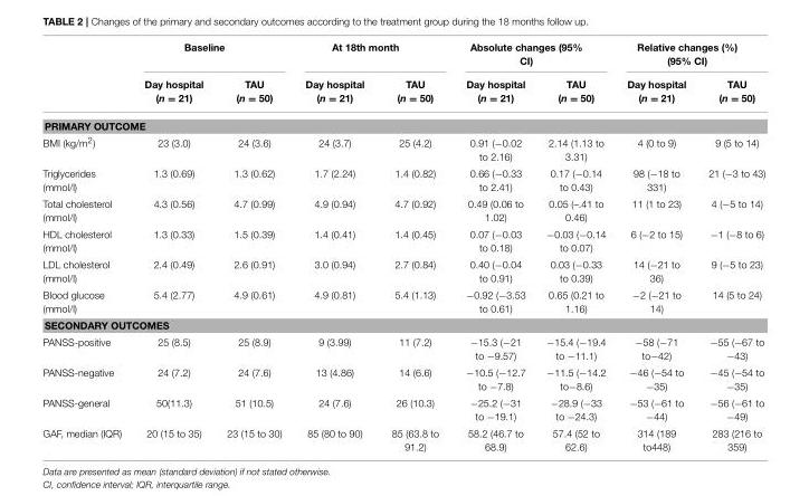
<table><thead><tr><td rowspan="2"></td><td colspan="2">Baseline</td><td colspan="2">At 18th month</td><td colspan="2">Absolute changes (95% CI)</td><td colspan="2">Relative changes (%) (95% CI)</td></tr><tr><td>Day hospital (n = 21)</td><td>TAU (n = 50)</td><td>Day hospital (n = 21)</td><td>TAU (n = 50)</td><td>Day hospital (n = 21)</td><td>TAU (n = 50)</td><td>Day hospital (n = 21)</td><td>TAU (n = 50)</td></tr></thead><tbody><tr><td colspan="9">PRIMARY OUTCOME</td></tr><tr><td>BMI (kg/m<sup>2</sup>)</td><td>23 (3.0)</td><td>24 (3.6)</td><td>24 (3.7)</td><td>25 (4.2)</td><td>0.91 (−0.02 to 2.16)</td><td>2.14 (1.13 to 3.31)</td><td>4 (0 to 9)</td><td>9 (5 to 14)</td></tr><tr><td>Triglycerides (mmol/l)</td><td>1.3 (0.69)</td><td>1.3 (0.62)</td><td>1.7 (2.24)</td><td>1.4 (0.82)</td><td>0.66 (−0.33 to 2.41)</td><td>0.17 (−0.14 to 0.43)</td><td>98 (−18 to 331)</td><td>21 (−3 to 43)</td></tr><tr><td>Total cholesterol (mmol/l)</td><td>4.3 (0.56)</td><td>4.7 (0.99)</td><td>4.9 (0.94)</td><td>4.7 (0.92)</td><td>0.49 (0.06 to 1.02)</td><td>0.05 (–.41 to 0.46)</td><td>11 (1 to 23)</td><td>4 (−5 to 14)</td></tr><tr><td>HDL cholesterol (mmol/l)</td><td>1.3 (0.33)</td><td>1.5 (0.39)</td><td>1.4 (0.41)</td><td>1.4 (0.45)</td><td>0.07 (−0.03 to 0.18)</td><td>−0.03 (−0.14 to 0.07)</td><td>6 (−2 to 15)</td><td>−1 (−8 to 6)</td></tr><tr><td>LDL cholesterol (mmol/l)</td><td>2.4 (0.49)</td><td>2.6 (0.91)</td><td>3.0 (0.94)</td><td>2.7 (0.84)</td><td>0.40 (−0.04 to 0.91)</td><td>0.03 (−0.33 to 0.39)</td><td>14 (−21 to 36)</td><td>9 (−5 to 23)</td></tr><tr><td>Blood glucose (mmol/l)</td><td>5.4 (2.77)</td><td>4.9 (0.61)</td><td>4.9 (0.81)</td><td>5.4 (1.13)</td><td>−0.92 (−3.53 to 0.61)</td><td>0.65 (0.21 to 1.16)</td><td>−2 (−21 to 14)</td><td>14 (5 to 24)</td></tr><tr><td colspan="9">SECONDARY OUTCOMES</td></tr><tr><td>PANSS-positive</td><td>25 (8.5)</td><td>25 (8.9)</td><td>9 (3.99)</td><td>11 (7.2)</td><td>−15.3 (−21 to −9.57)</td><td>−15.4 (−19.4 to −11.1)</td><td>−58 (−71 to−42)</td><td>−55 (−67 to −43)</td></tr><tr><td>PANSS-negative</td><td>24 (7.2)</td><td>24 (7.6)</td><td>13 (4.86)</td><td>14 (6.6)</td><td>−10.5 (−12.7 to −7.8)</td><td>−11.5 (−14.2 to−8.6)</td><td>−46 (−54 to −35)</td><td>−45 (−54 to −35)</td></tr><tr><td>PANSS-general</td><td>50(11.3)</td><td>51 (10.5)</td><td>24 (7.6)</td><td>26 (10.3)</td><td>−25.2 (−31 to −19.1)</td><td>−28.9 (−33 to −24.3)</td><td>−53 (−61 to −44)</td><td>−56 (−61 to −49)</td></tr><tr><td>GAF, median (IQR)</td><td>20 (15 to 35)</td><td>23 (15 to 30)</td><td>85 (80 to 90)</td><td>85 (63.8 to 91.2)</td><td>58.2 (46.7 to 68.9)</td><td>57.4 (52 to 62.6)</td><td>314 (189 to448)</td><td>283 (216 to 359)</td></tr></tbody></table>